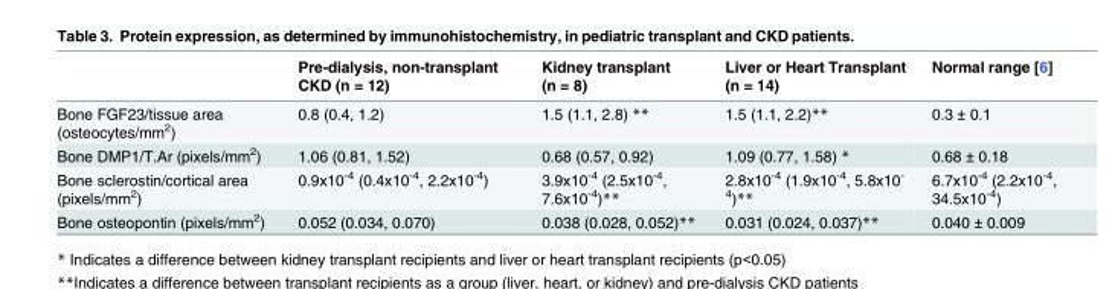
<table><thead><tr><td></td><td>Pre-dialysis, non-transplant CKD (n = 12)</td><td>Kidney transplant (n = 8)</td><td>Liver or Heart Transplant (n = 14)</td><td>Normal range [6]</td></tr></thead><tbody><tr><td>Bone FGF23/tissue area (osteocytes/mm<sup>2</sup>)</td><td>0.8 (0.4, 1.2)</td><td>1.5 (1.1, 2.8) **</td><td>1.5 (1.1, 2.2)**</td><td>0.3 ± 0.1</td></tr><tr><td>Bone DMP1/T.Ar (pixels/mm<sup>2</sup>)</td><td>1.06 (0.81, 1.52)</td><td>0.68 (0.57, 0.92)</td><td>1.09 (0.77, 1.58) *</td><td>0.68 ± 0.18</td></tr><tr><td>Bone sclerostin/cortical area (pixels/mm<sup>2</sup>)</td><td>0.9x10<sup>-4</sup> (0.4x10<sup>-4</sup>, 2.2x10<sup>-4</sup>)</td><td>3.9x10<sup>-4</sup> (2.5x10<sup>-4</sup>, 7.6x10<sup>-4</sup>)**</td><td>2.8x10<sup>-4</sup> (1.9x10<sup>-4</sup>, 5.8x10<sup>- 4</sup>)**</td><td>6.7x10<sup>-4</sup> (2.2x10<sup>-4</sup>, 34.5x10<sup>-4</sup>)</td></tr><tr><td>Bone osteopontin (pixels/mm<sup>2</sup>)</td><td>0.052 (0.034, 0.070)</td><td>0.038 (0.028, 0.052)**</td><td>0.031 (0.024, 0.037)**</td><td>0.040 ± 0.009</td></tr></tbody></table>